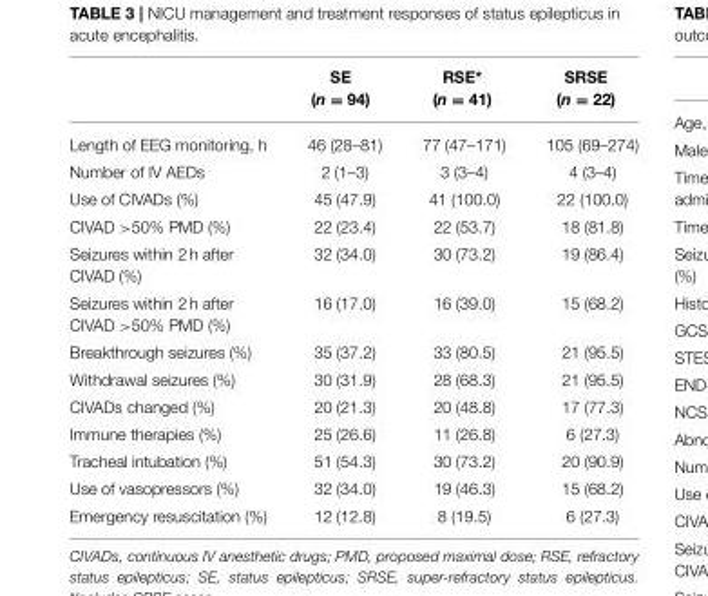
<table><thead><tr><td></td><td>SE (n = 94)</td><td>RSE* (n = 41)</td><td>SRSE (n = 22)</td></tr></thead><tbody><tr><td>Length of EEG monitoring, h</td><td>46 (28–81)</td><td>77 (47–171)</td><td>105 (69–274)</td></tr><tr><td>Number of IV AEDs</td><td>2 (1–3)</td><td>3 (3–4)</td><td>4 (3–4)</td></tr><tr><td>Use of CIVADs (%)</td><td>45 (47.9)</td><td>41 (100.0)</td><td>22 (100.0)</td></tr><tr><td>CIVAD &gt;50% PMD (%)</td><td>22 (23.4)</td><td>22 (53.7)</td><td>18 (81.8)</td></tr><tr><td>Seizures within 2 h after CIVAD (%)</td><td>32 (34.0)</td><td>30 (73.2)</td><td>19 (86.4)</td></tr><tr><td>Seizures within 2 h after CIVAD &gt;50% PMD (%)</td><td>16 (17.0)</td><td>16 (39.0)</td><td>15 (68.2)</td></tr><tr><td>Breakthrough seizures (%)</td><td>35 (37.2)</td><td>33 (80.5)</td><td>21 (95.5)</td></tr><tr><td>Withdrawal seizures (%)</td><td>30 (31.9)</td><td>28 (68.3)</td><td>21 (95.5)</td></tr><tr><td>CIVADs changed (%)</td><td>20 (21.3)</td><td>20 (48.8)</td><td>17 (77.3)</td></tr><tr><td>Immune therapies (%)</td><td>25 (26.6)</td><td>11 (26.8)</td><td>6 (27.3)</td></tr><tr><td>Tracheal intubation (%)</td><td>51 (54.3)</td><td>30 (73.2)</td><td>20 (90.9)</td></tr><tr><td>Use of vasopressors (%)</td><td>32 (34.0)</td><td>19 (46.3)</td><td>15 (68.2)</td></tr><tr><td>Emergency resuscitation (%)</td><td>12 (12.8)</td><td>8 (19.5)</td><td>6 (27.3)</td></tr></tbody></table>